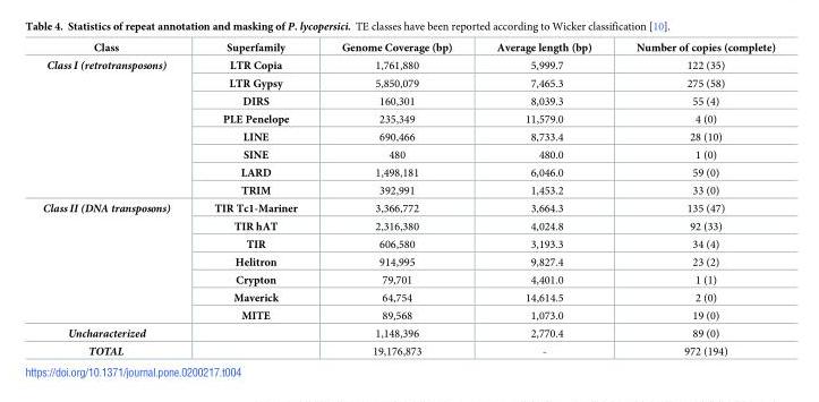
<table><thead><tr><td>Class</td><td>Superfamily</td><td>Genome Coverage (bp)</td><td>Average length (bp)</td><td>Number of copies (complete)</td></tr></thead><tbody><tr><td rowspan="8">Class I (retrotransposons)</td><td>LTR Copia</td><td>1,761,880</td><td>5,999.7</td><td>122 (35)</td></tr><tr><td>LTR Gypsy</td><td>5,850,079</td><td>7,465.3</td><td>275 (58)</td></tr><tr><td>DIRS</td><td>160,301</td><td>8,039.3</td><td>55 (4)</td></tr><tr><td>PLE Penelope</td><td>235,349</td><td>11,579.0</td><td>4 (0)</td></tr><tr><td>LINE</td><td>690,466</td><td>8,733.4</td><td>28 (10)</td></tr><tr><td>SINE</td><td>480</td><td>480.0</td><td>1 (0)</td></tr><tr><td>LARD</td><td>1,498,181</td><td>6,046.0</td><td>59 (0)</td></tr><tr><td>TRIM</td><td>392,991</td><td>1,453.2</td><td>33 (0)</td></tr><tr><td rowspan="7">Class II (DNA transposons)</td><td>TIR Tc1-Mariner</td><td>3,366,772</td><td>3,664.3</td><td>135 (47)</td></tr><tr><td>TIR hAT</td><td>2,316,380</td><td>4,024.8</td><td>92 (33)</td></tr><tr><td>TIR</td><td>606,580</td><td>3,193.3</td><td>34 (4)</td></tr><tr><td>Helitron</td><td>914,995</td><td>9,827.4</td><td>23 (2)</td></tr><tr><td>Crypton</td><td>79,701</td><td>4,401.0</td><td>1 (1)</td></tr><tr><td>Maverick</td><td>64,754</td><td>14,614.5</td><td>2 (0)</td></tr><tr><td>MITE</td><td>89,568</td><td>1,073.0</td><td>19 (0)</td></tr><tr><td>Uncharacterized</td><td></td><td>1,148,396</td><td>2,770.4</td><td>89 (0)</td></tr><tr><td>TOTAL</td><td></td><td>19,176,873</td><td>-</td><td>972 (194)</td></tr></tbody></table>